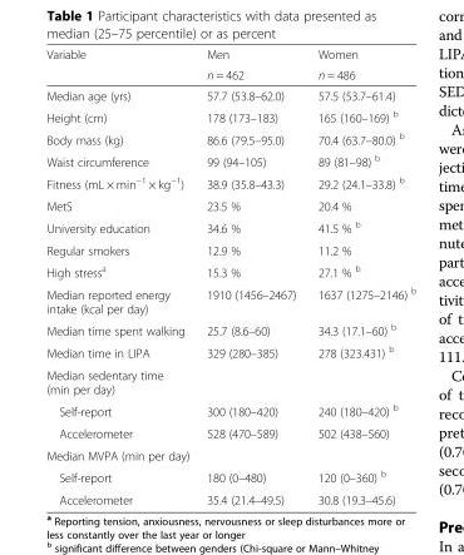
<table><thead><tr><td rowspan="2">Variable</td><td rowspan="2">Men n = 462</td><td rowspan="2">Women n = 486</td></tr><tr></tr></thead><tbody><tr><td>Median age (yrs)</td><td>57.7 (53.8–62.0)</td><td>57.5 (53.7–61.4)</td></tr><tr><td>Height (cm)</td><td>178 (173–183)</td><td>165 (160–169) <sup>b</sup></td></tr><tr><td>Body mass (kg)</td><td>86.6 (79.5–95.0)</td><td>70.4 (63.7–80.0) <sup>b</sup></td></tr><tr><td>Waist circumference</td><td>99 (94–105)</td><td>89 (81–98) <sup>b</sup></td></tr><tr><td>Fitness (mL × min<sup>−1</sup> × kg<sup>−1</sup>)</td><td>38.9 (35.8–43.3)</td><td>29.2 (24.1–33.8) <sup>b</sup></td></tr><tr><td>MetS</td><td>23.5 %</td><td>20.4 %</td></tr><tr><td>University education</td><td>34.6 %</td><td>41.5 % <sup>b</sup></td></tr><tr><td>Regular smokers</td><td>12.9 %</td><td>11.2 %</td></tr><tr><td>High stress<sup>a</sup></td><td>15.3 %</td><td>27.1 % <sup>b</sup></td></tr><tr><td>Median reported energy intake (kcal per day)</td><td>1910 (1456–2467)</td><td>1637 (1275–2146) <sup>b</sup></td></tr><tr><td>Median time spent walking</td><td>25.7 (8.6–60)</td><td>34.3 (17.1–60) <sup>b</sup></td></tr><tr><td>Median time in LIPA</td><td>329 (280–385)</td><td>278 (323.431) <sup>b</sup></td></tr><tr><td colspan="3">Median sedentary time (min per day)</td></tr><tr><td>Self-report</td><td>300 (180–420)</td><td>240 (180–420) <sup>b</sup></td></tr><tr><td>Accelerometer</td><td>528 (470–589)</td><td>502 (438–560)</td></tr><tr><td colspan="3">Median MVPA (min per day)</td></tr><tr><td>Self-report</td><td>180 (0–480)</td><td>120 (0–360) <sup>b</sup></td></tr><tr><td>Accelerometer</td><td>35.4 (21.4–49.5)</td><td>30.8 (19.3–45.6)</td></tr></tbody></table>